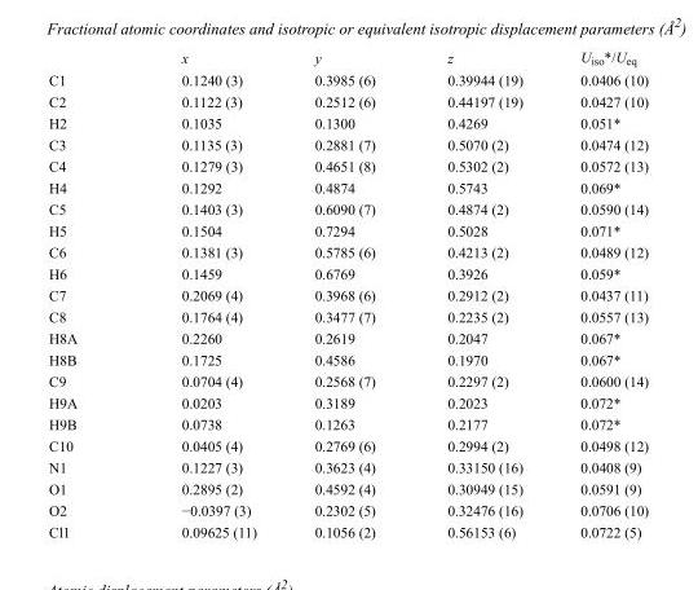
<table><thead><tr><td></td><td>x</td><td>y</td><td>z</td><td>U<sub>iso</sub>*/U<sub>eq</sub></td></tr></thead><tbody><tr><td>C1</td><td>0.1240 (3)</td><td>0.3985 (6)</td><td>0.39944 (19)</td><td>0.0406 (10)</td></tr><tr><td>C2</td><td>0.1122 (3)</td><td>0.2512 (6)</td><td>0.44197 (19)</td><td>0.0427 (10)</td></tr><tr><td>H2</td><td>0.1035</td><td>0.1300</td><td>0.4269</td><td>0.051*</td></tr><tr><td>C3</td><td>0.1135 (3)</td><td>0.2881 (7)</td><td>0.5070 (2)</td><td>0.0474 (12)</td></tr><tr><td>C4</td><td>0.1279 (3)</td><td>0.4651 (8)</td><td>0.5302 (2)</td><td>0.0572 (13)</td></tr><tr><td>H4</td><td>0.1292</td><td>0.4874</td><td>0.5743</td><td>0.069*</td></tr><tr><td>C5</td><td>0.1403 (3)</td><td>0.6090 (7)</td><td>0.4874 (2)</td><td>0.0590 (14)</td></tr><tr><td>H5</td><td>0.1504</td><td>0.7294</td><td>0.5028</td><td>0.071*</td></tr><tr><td>C6</td><td>0.1381 (3)</td><td>0.5785 (6)</td><td>0.4213 (2)</td><td>0.0489 (12)</td></tr><tr><td>H6</td><td>0.1459</td><td>0.6769</td><td>0.3926</td><td>0.059*</td></tr><tr><td>C7</td><td>0.2069 (4)</td><td>0.3968 (6)</td><td>0.2912 (2)</td><td>0.0437 (11)</td></tr><tr><td>C8</td><td>0.1764 (4)</td><td>0.3477 (7)</td><td>0.2235 (2)</td><td>0.0557 (13)</td></tr><tr><td>H8A</td><td>0.2260</td><td>0.2619</td><td>0.2047</td><td>0.067*</td></tr><tr><td>H8B</td><td>0.1725</td><td>0.4586</td><td>0.1970</td><td>0.067*</td></tr><tr><td>C9</td><td>0.0704 (4)</td><td>0.2568 (7)</td><td>0.2297 (2)</td><td>0.0600 (14)</td></tr><tr><td>H9A</td><td>0.0203</td><td>0.3189</td><td>0.2023</td><td>0.072*</td></tr><tr><td>H9B</td><td>0.0738</td><td>0.1263</td><td>0.2177</td><td>0.072*</td></tr><tr><td>C10</td><td>0.0405 (4)</td><td>0.2769 (6)</td><td>0.2994 (2)</td><td>0.0498 (12)</td></tr><tr><td>N1</td><td>0.1227 (3)</td><td>0.3623 (4)</td><td>0.33150 (16)</td><td>0.0408 (9)</td></tr><tr><td>O1</td><td>0.2895 (2)</td><td>0.4592 (4)</td><td>0.30949 (15)</td><td>0.0591 (9)</td></tr><tr><td>O2</td><td>−0.0397 (3)</td><td>0.2302 (5)</td><td>0.32476 (16)</td><td>0.0706 (10)</td></tr><tr><td>Cl1</td><td>0.09625 (11)</td><td>0.1056 (2)</td><td>0.56153 (6)</td><td>0.0722 (5)</td></tr></tbody></table>